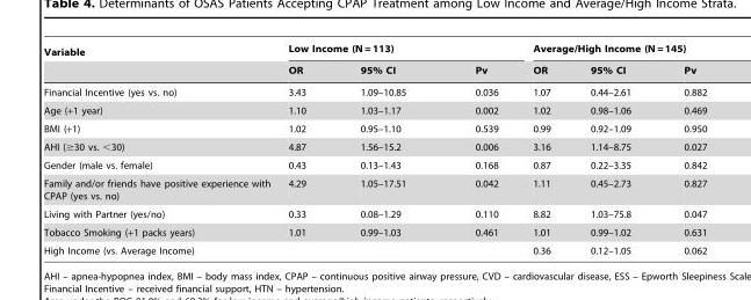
<table><thead><tr><td rowspan="2">Variable</td><td colspan="3">Low Income (N = 113)</td><td colspan="3">Average/High Income (N = 145)</td></tr><tr><td>OR</td><td>95% CI</td><td>Pv</td><td>OR</td><td>95% CI</td><td>Pv</td></tr></thead><tbody><tr><td>Financial Incentive (yes vs. no)</td><td>3.43</td><td>1.09–10.85</td><td>0.036</td><td>1.07</td><td>0.44–2.61</td><td>0.882</td></tr><tr><td>Age (+1 year)</td><td>1.10</td><td>1.03–1.17</td><td>0.002</td><td>1.02</td><td>0.98–1.06</td><td>0.469</td></tr><tr><td>BMI (+1)</td><td>1.02</td><td>0.95–1.10</td><td>0.539</td><td>0.99</td><td>0.92–1.09</td><td>0.950</td></tr><tr><td>AHI (≥30 vs. &lt;30)</td><td>4.87</td><td>1.56–15.2</td><td>0.006</td><td>3.16</td><td>1.14–8.75</td><td>0.027</td></tr><tr><td>Gender (male vs. female)</td><td>0.43</td><td>0.13–1.43</td><td>0.168</td><td>0.87</td><td>0.22–3.35</td><td>0.842</td></tr><tr><td>Family and/or friends have positive experience with CPAP (yes vs. no)</td><td>4.29</td><td>1.05–17.51</td><td>0.042</td><td>1.11</td><td>0.45–2.73</td><td>0.827</td></tr><tr><td>Living with Partner (yes/no)</td><td>0.33</td><td>0.08–1.29</td><td>0.110</td><td>8.82</td><td>1.03–75.8</td><td>0.047</td></tr><tr><td>Tobacco Smoking (+1 packs years)</td><td>1.01</td><td>0.99–1.03</td><td>0.461</td><td>1.01</td><td>0.99–1.02</td><td>0.631</td></tr><tr><td>High Income (vs. Average Income)</td><td></td><td></td><td></td><td>0.36</td><td>0.12–1.05</td><td>0.062</td></tr></tbody></table>